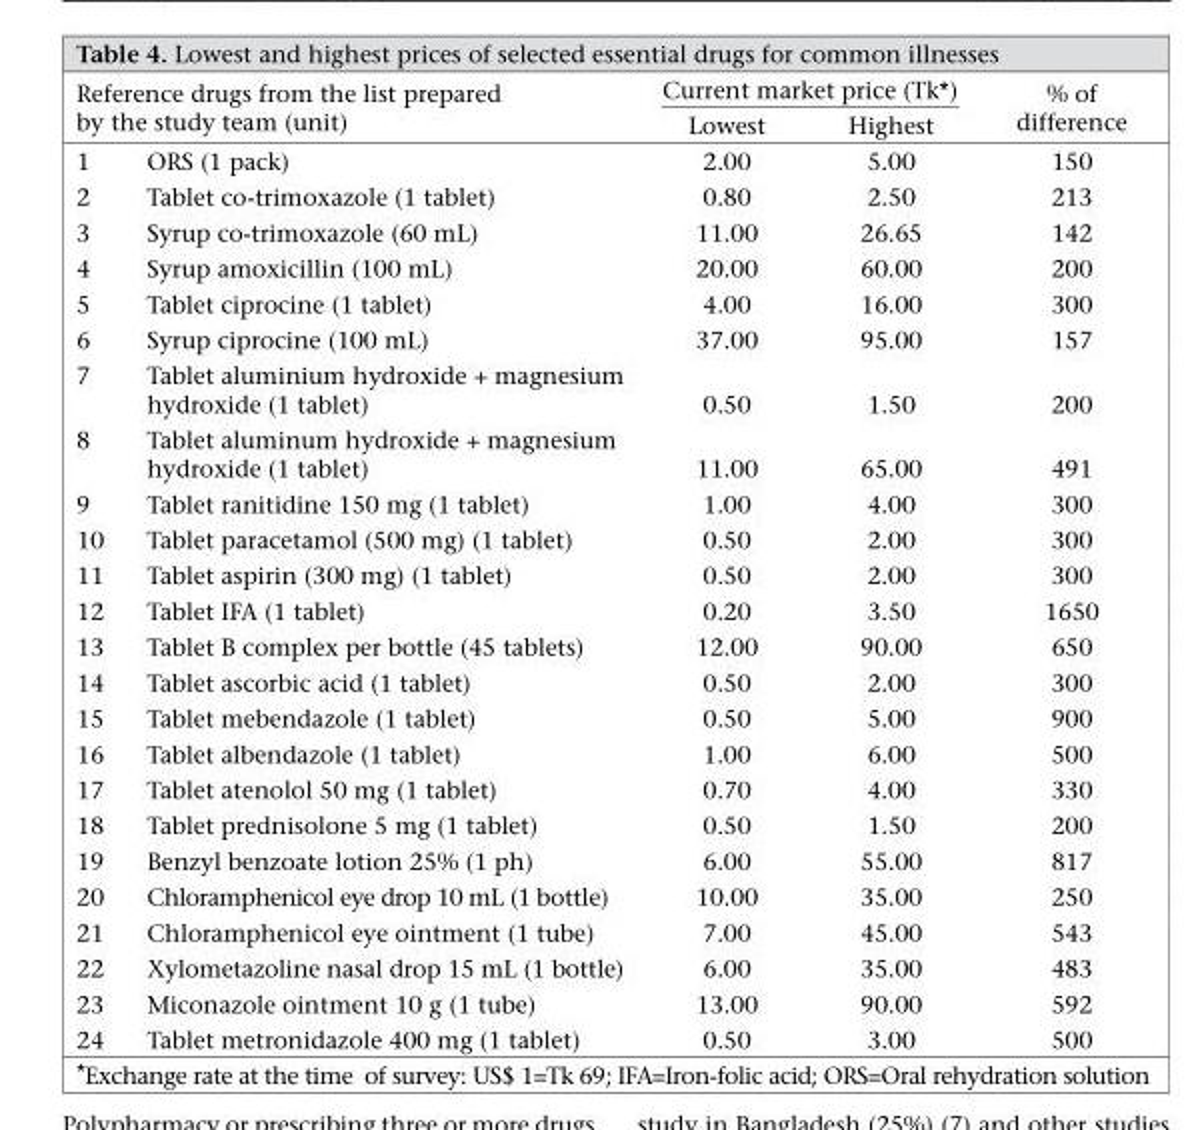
<table><thead><tr><td rowspan="2" colspan="2">Reference drugs from the list prepared by the study team (unit)</td><td colspan="2">Current market price (Tk*)</td><td rowspan="3">% of difference 150</td></tr><tr><td rowspan="2">Lowest 2.00</td><td rowspan="2">Highest 5.00</td></tr><tr><td>1</td><td>ORS (1 pack)</td></tr></thead><tbody><tr><td>2</td><td>Tablet co-trimoxazole (1 tablet)</td><td>0.80</td><td>2.50</td><td>213</td></tr><tr><td>3</td><td>Syrup co-trimoxazole (60 mL)</td><td>11.00</td><td>26.65</td><td>142</td></tr><tr><td>4</td><td>Syrup amoxicillin (100 mL)</td><td>20.00</td><td>60.00</td><td>200</td></tr><tr><td>5</td><td>Tablet ciprocine (1 tablet)</td><td>4.00</td><td>16.00</td><td>300</td></tr><tr><td>6</td><td>Syrup ciprocine (100 mL)</td><td>37.00</td><td>95.00</td><td>157</td></tr><tr><td>7</td><td>Tablet aluminium hydroxide + magnesium hydroxide (1 tablet)</td><td>0.50</td><td>1.50</td><td>200</td></tr><tr><td>8</td><td>Tablet aluminum hydroxide + magnesium hydroxide (1 tablet)</td><td>11.00</td><td>65.00</td><td>491</td></tr><tr><td>9</td><td>Tablet ranitidine 150 mg (1 tablet)</td><td>1.00</td><td>4.00</td><td>300</td></tr><tr><td>10</td><td>Tablet paracetamol (500 mg) (1 tablet)</td><td>0.50</td><td>2.00</td><td>300</td></tr><tr><td>11</td><td>Tablet aspirin (300 mg) (1 tablet)</td><td>0.50</td><td>2.00</td><td>300</td></tr><tr><td>12</td><td>Tablet IFA (1 tablet)</td><td>0.20</td><td>3.50</td><td>1650</td></tr><tr><td>13</td><td>Tablet B complex per bottle (45 tablets)</td><td>12.00</td><td>90.00</td><td>650</td></tr><tr><td>14</td><td>Tablet ascorbic acid (1 tablet)</td><td>0.50</td><td>2.00</td><td>300</td></tr><tr><td>15</td><td>Tablet mebendazole (1 tablet)</td><td>0.50</td><td>5.00</td><td>900</td></tr><tr><td>16</td><td>Tablet albendazole (1 tablet)</td><td>1.00</td><td>6.00</td><td>500</td></tr><tr><td>17</td><td>Tablet atenolol 50 mg (1 tablet)</td><td>0.70</td><td>4.00</td><td>330</td></tr><tr><td>18</td><td>Tablet prednisolone 5 mg (1 tablet)</td><td>0.50</td><td>1.50</td><td>200</td></tr><tr><td>19</td><td>Benzyl benzoate lotion 25% (1 ph)</td><td>6.00</td><td>55.00</td><td>817</td></tr><tr><td>20</td><td>Chloramphenicol eye drop 10 mL (1 bottle)</td><td>10.00</td><td>35.00</td><td>250</td></tr><tr><td>21</td><td>Chloramphenicol eye ointment (1 tube)</td><td>7.00</td><td>45.00</td><td>543</td></tr><tr><td>22</td><td>Xylometazoline nasal drop 15 mL (1 bottle)</td><td>6.00</td><td>35.00</td><td>483</td></tr><tr><td>23</td><td>Miconazole ointment 10 g (1 tube)</td><td>13.00</td><td>90.00</td><td>592</td></tr><tr><td>24</td><td>Tablet metronidazole 400 mg (1 tablet)</td><td>0.50</td><td>3.00</td><td>500</td></tr></tbody></table>